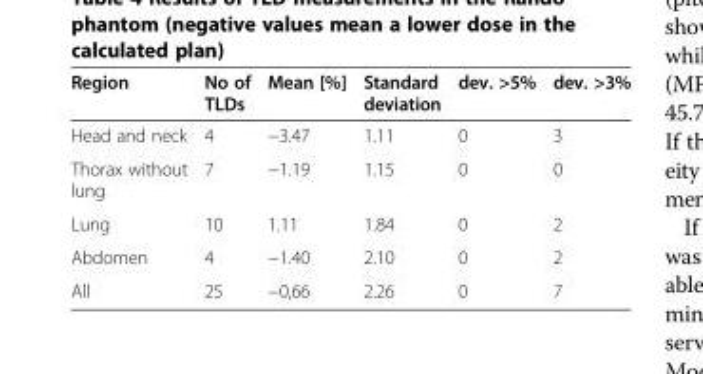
<table><thead><tr><td>Region</td><td>No of TLDs</td><td>Mean [%]</td><td>Standard deviation</td><td>dev. &gt;5%</td><td>dev. &gt;3%</td></tr></thead><tbody><tr><td>Head and neck</td><td>4</td><td>−3.47</td><td>1.11</td><td>0</td><td>3</td></tr><tr><td>Thorax without lung</td><td>7</td><td>−1.19</td><td>1.15</td><td>0</td><td>0</td></tr><tr><td>Lung</td><td>10</td><td>1.11</td><td>1.84</td><td>0</td><td>2</td></tr><tr><td>Abdomen</td><td>4</td><td>−1.40</td><td>2.10</td><td>0</td><td>2</td></tr><tr><td>All</td><td>25</td><td>−0,66</td><td>2.26</td><td>0</td><td>7</td></tr></tbody></table>